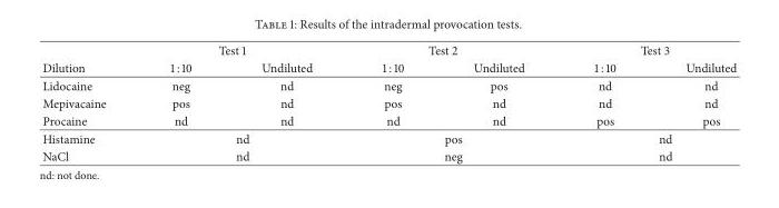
<table><thead><tr><td rowspan="2">Dilution</td><td colspan="2">Test 1</td><td colspan="2">Test 2</td><td colspan="2">Test 3</td></tr><tr><td>1 : 10</td><td>Undiluted</td><td>1 : 10</td><td>Undiluted</td><td>1 : 10</td><td>Undiluted</td></tr></thead><tbody><tr><td>Lidocaine</td><td>neg</td><td>nd</td><td>neg</td><td>pos</td><td>nd</td><td>nd</td></tr><tr><td>Mepivacaine</td><td>pos</td><td>nd</td><td>pos</td><td>nd</td><td>nd</td><td>nd</td></tr><tr><td>Procaine</td><td>nd</td><td>nd</td><td>nd</td><td>nd</td><td>pos</td><td>pos</td></tr><tr><td>Histamine</td><td colspan="2">nd</td><td colspan="2">pos</td><td colspan="2">nd</td></tr><tr><td>NaCl</td><td colspan="2">nd</td><td colspan="2">neg</td><td colspan="2">nd</td></tr></tbody></table>